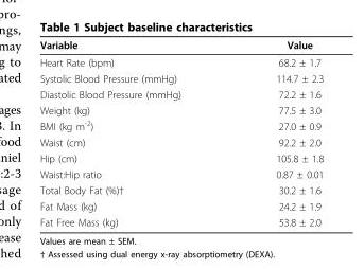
<table><thead><tr><td>Variable</td><td>Value</td></tr></thead><tbody><tr><td>Heart Rate (bpm)</td><td>68.2 ± 1.7</td></tr><tr><td>Systolic Blood Pressure (mmHg)</td><td>114.7 ± 2.3</td></tr><tr><td>Diastolic Blood Pressure (mmHg)</td><td>72.2 ± 1.6</td></tr><tr><td>Weight (kg)</td><td>77.5 ± 3.0</td></tr><tr><td>BMI (kg m<sup>-2</sup>)</td><td>27.0 ± 0.9</td></tr><tr><td>Waist (cm)</td><td>92.2 ± 2.0</td></tr><tr><td>Hip (cm)</td><td>105.8 ± 1.8</td></tr><tr><td>Waist:Hip ratio</td><td>0.87 ± 0.01</td></tr><tr><td>Total Body Fat (%)†</td><td>30.2 ± 1.6</td></tr><tr><td>Fat Mass (kg)</td><td>24.2 ± 1.9</td></tr><tr><td>Fat Free Mass (kg)</td><td>53.8 ± 2.0</td></tr></tbody></table>